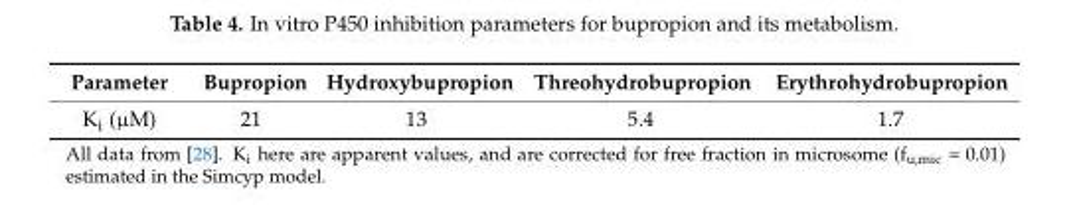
<table><thead><tr><td>Parameter</td><td>Bupropion</td><td>Hydroxybupropion</td><td>Threohydrobupropion</td><td>Erythrohydrobupropion</td></tr></thead><tbody><tr><td>K<sub>i</sub> (µM)</td><td>21</td><td>13</td><td>5.4</td><td>1.7</td></tr></tbody></table>